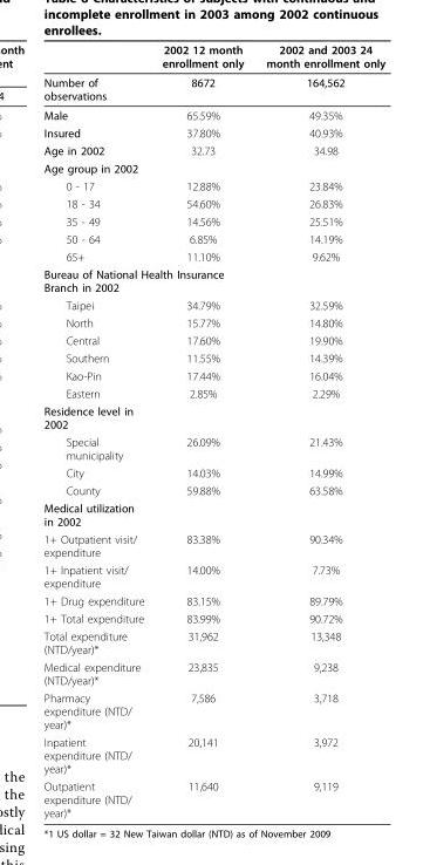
<table><thead><tr><td></td><td>2002 12 month enrollment only</td><td>2002 and 2003 24 month enrollment only</td></tr></thead><tbody><tr><td>Number of observations</td><td>8672</td><td>164,562</td></tr><tr><td>Male</td><td>65.59%</td><td>49.35%</td></tr><tr><td>Insured</td><td>37.80%</td><td>40.93%</td></tr><tr><td>Age in 2002</td><td>32.73</td><td>34.98</td></tr><tr><td colspan="3">Age group in 2002</td></tr><tr><td>0 - 17</td><td>12.88%</td><td>23.84%</td></tr><tr><td>18 - 34</td><td>54.60%</td><td>26.83%</td></tr><tr><td>35 - 49</td><td>14.56%</td><td>25.51%</td></tr><tr><td>50 - 64</td><td>6.85%</td><td>14.19%</td></tr><tr><td>65+</td><td>11.10%</td><td>9.62%</td></tr><tr><td colspan="3">Bureau of National Health Insurance Branch in 2002</td></tr><tr><td>Taipei</td><td>34.79%</td><td>32.59%</td></tr><tr><td>North</td><td>15.77%</td><td>14.80%</td></tr><tr><td>Central</td><td>17.60%</td><td>19.90%</td></tr><tr><td>Southern</td><td>11.55%</td><td>14.39%</td></tr><tr><td>Kao-Pin</td><td>17.44%</td><td>16.04%</td></tr><tr><td>Eastern</td><td>2.85%</td><td>2.29%</td></tr><tr><td colspan="3">Residence level in 2002</td></tr><tr><td>Special municipality</td><td>26.09%</td><td>21.43%</td></tr><tr><td>City</td><td>14.03%</td><td>14.99%</td></tr><tr><td>County</td><td>59.88%</td><td>63.58%</td></tr><tr><td colspan="3">Medical utilization in 2002</td></tr><tr><td>1+ Outpatient visit/ expenditure</td><td>83.38%</td><td>90.34%</td></tr><tr><td>1+ Inpatient visit/ expenditure</td><td>14.00%</td><td>7.73%</td></tr><tr><td>1+ Drug expenditure</td><td>83.15%</td><td>89.79%</td></tr><tr><td>1+ Total expenditure</td><td>83.99%</td><td>90.72%</td></tr><tr><td>Total expenditure (NTD/year)*</td><td>31,962</td><td>13,348</td></tr><tr><td>Medical expenditure (NTD/year)*</td><td>23,835</td><td>9,238</td></tr><tr><td>Pharmacy expenditure (NTD/ year)*</td><td>7,586</td><td>3,718</td></tr><tr><td>Inpatient expenditure (NTD/ year)*</td><td>20,141</td><td>3,972</td></tr><tr><td>Outpatient expenditure (NTD/ year)*</td><td>11,640</td><td>9,119</td></tr></tbody></table>